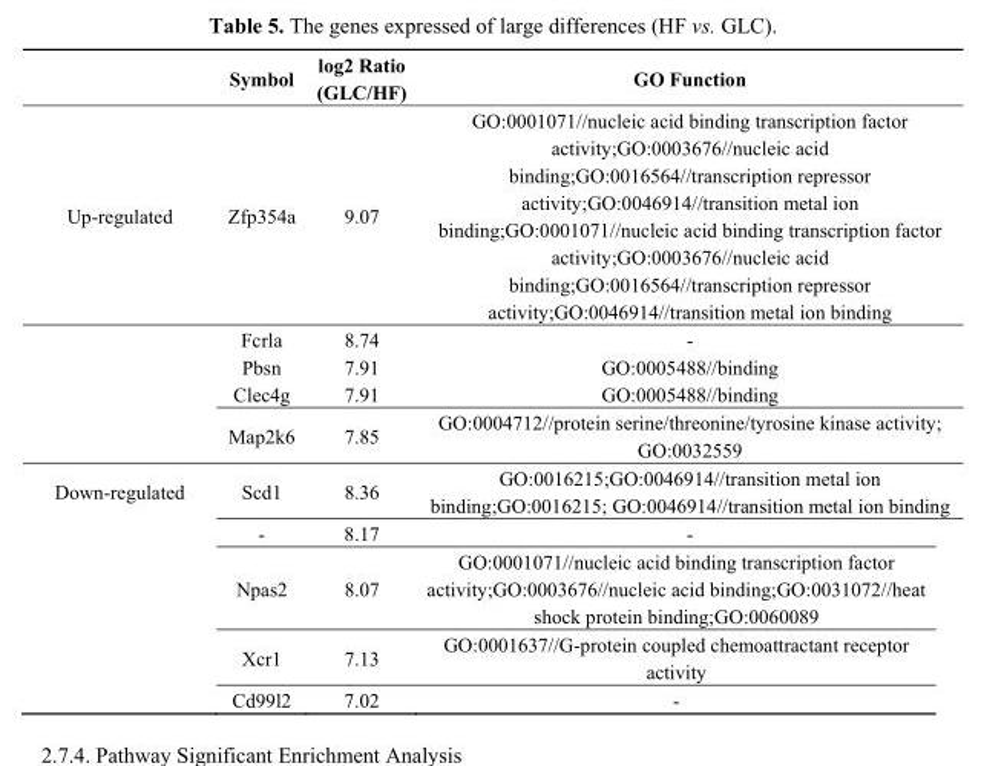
<table><thead><tr><td></td><td>Symbol</td><td>log2 Ratio (GLC/HF)</td><td>GO Function</td></tr></thead><tbody><tr><td rowspan="5">Up-regulated</td><td>Zfp354a</td><td>9.07</td><td>GO:0001071//nucleic acid binding transcription factor activity;GO:0003676//nucleic acid binding;GO:0016564//transcription repressor activity;GO:0046914//transition metal ion binding;GO:0001071//nucleic acid binding transcription factor activity;GO:0003676//nucleic acid binding;GO:0016564//transcription repressor activity;GO:0046914//transition metal ion binding</td></tr><tr><td>Fcrla</td><td>8.74</td><td>-</td></tr><tr><td>Pbsn</td><td>7.91</td><td>GO:0005488//binding</td></tr><tr><td>Clec4g</td><td>7.91</td><td>GO:0005488//binding</td></tr><tr><td>Map2k6</td><td>7.85</td><td>GO:0004712//protein serine/threonine/tyrosine kinase activity; GO:0032559</td></tr><tr><td rowspan="5">Down-regulated</td><td>Scd1</td><td>8.36</td><td>GO:0016215;GO:0046914//transition metal ion binding;GO:0016215; GO:0046914//transition metal ion binding</td></tr><tr><td>-</td><td>8.17</td><td>-</td></tr><tr><td>Npas2</td><td>8.07</td><td>GO:0001071//nucleic acid binding transcription factor activity;GO:0003676//nucleic acid binding;GO:0031072//heat shock protein binding;GO:0060089</td></tr><tr><td>Xcr1</td><td>7.13</td><td>GO:0001637//G-protein coupled chemoattractant receptor activity</td></tr><tr><td>Cd99l2</td><td>7.02</td><td>-</td></tr></tbody></table>